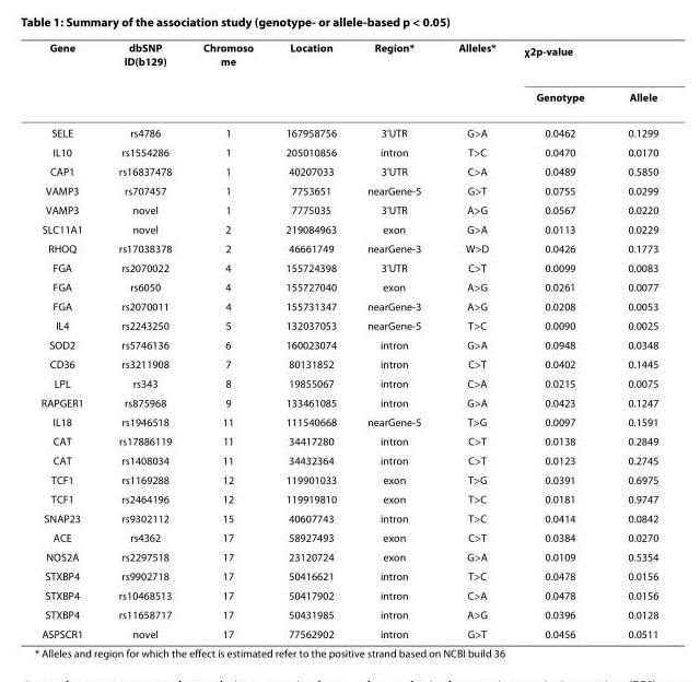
<table><thead><tr><td rowspan="2">Gene</td><td rowspan="2">dbSNP ID(b129)</td><td rowspan="2">Chromoso me</td><td rowspan="2">Location</td><td rowspan="2">Region*</td><td rowspan="2">Alleles*</td><td colspan="2">χ<sup>2</sup>p-value</td></tr><tr><td>Genotype</td><td>Allele</td></tr></thead><tbody><tr><td>SELE</td><td>rs4786</td><td>1</td><td>167958756</td><td>3&#x27;UTR</td><td>G&gt;A</td><td>0.0462</td><td>0.1299</td></tr><tr><td>IL10</td><td>rs1554286</td><td>1</td><td>205010856</td><td>intron</td><td>T&gt;C</td><td>0.0470</td><td>0.0170</td></tr><tr><td>CAP1</td><td>rs16837478</td><td>1</td><td>40207033</td><td>3&#x27;UTR</td><td>C&gt;A</td><td>0.0489</td><td>0.5850</td></tr><tr><td>VAMP3</td><td>rs707457</td><td>1</td><td>7753651</td><td>nearGene-5</td><td>G&gt;T</td><td>0.0755</td><td>0.0299</td></tr><tr><td>VAMP3</td><td>novel</td><td>1</td><td>7775035</td><td>3&#x27;UTR</td><td>A&gt;G</td><td>0.0567</td><td>0.0220</td></tr><tr><td>SLC11A1</td><td>novel</td><td>2</td><td>219084963</td><td>exon</td><td>G&gt;A</td><td>0.0113</td><td>0.0229</td></tr><tr><td>RHOQ</td><td>rs17038378</td><td>2</td><td>46661749</td><td>nearGene-3</td><td>W&gt;D</td><td>0.0426</td><td>0.1773</td></tr><tr><td>FGA</td><td>rs2070022</td><td>4</td><td>155724398</td><td>3&#x27;UTR</td><td>C&gt;T</td><td>0.0099</td><td>0.0083</td></tr><tr><td>FGA</td><td>rs6050</td><td>4</td><td>155727040</td><td>exon</td><td>A&gt;G</td><td>0.0261</td><td>0.0077</td></tr><tr><td>FGA</td><td>rs2070011</td><td>4</td><td>155731347</td><td>nearGene-3</td><td>A&gt;G</td><td>0.0208</td><td>0.0053</td></tr><tr><td>IL4</td><td>rs2243250</td><td>5</td><td>132037053</td><td>nearGene-5</td><td>T&gt;C</td><td>0.0090</td><td>0.0025</td></tr><tr><td>SOD2</td><td>rs5746136</td><td>6</td><td>160023074</td><td>intron</td><td>G&gt;A</td><td>0.0948</td><td>0.0348</td></tr><tr><td>CD36</td><td>rs3211908</td><td>7</td><td>80131852</td><td>intron</td><td>C&gt;T</td><td>0.0402</td><td>0.1445</td></tr><tr><td>LPL</td><td>rs343</td><td>8</td><td>19855067</td><td>intron</td><td>C&gt;A</td><td>0.0215</td><td>0.0075</td></tr><tr><td>RAPGER1</td><td>rs875968</td><td>9</td><td>133461085</td><td>intron</td><td>G&gt;A</td><td>0.0423</td><td>0.1247</td></tr><tr><td>IL18</td><td>rs1946518</td><td>11</td><td>111540668</td><td>nearGene-5</td><td>T&gt;G</td><td>0.0097</td><td>0.1591</td></tr><tr><td>CAT</td><td>rs17886119</td><td>11</td><td>34417280</td><td>intron</td><td>C&gt;T</td><td>0.0138</td><td>0.2849</td></tr><tr><td>CAT</td><td>rs1408034</td><td>11</td><td>34432364</td><td>intron</td><td>C&gt;T</td><td>0.0123</td><td>0.2745</td></tr><tr><td>TCF1</td><td>rs1169288</td><td>12</td><td>119901033</td><td>exon</td><td>T&gt;G</td><td>0.0391</td><td>0.6975</td></tr><tr><td>TCF1</td><td>rs2464196</td><td>12</td><td>119919810</td><td>exon</td><td>T&gt;C</td><td>0.0181</td><td>0.9747</td></tr><tr><td>SNAP23</td><td>rs9302112</td><td>15</td><td>40607743</td><td>intron</td><td>T&gt;C</td><td>0.0414</td><td>0.0842</td></tr><tr><td>ACE</td><td>rs4362</td><td>17</td><td>58927493</td><td>exon</td><td>C&gt;T</td><td>0.0384</td><td>0.0270</td></tr><tr><td>NOS2A</td><td>rs2297518</td><td>17</td><td>23120724</td><td>exon</td><td>G&gt;A</td><td>0.0109</td><td>0.5354</td></tr><tr><td>STXBP4</td><td>rs9902718</td><td>17</td><td>50416621</td><td>intron</td><td>T&gt;C</td><td>0.0478</td><td>0.0156</td></tr><tr><td>STXBP4</td><td>rs10468513</td><td>17</td><td>50417902</td><td>intron</td><td>C&gt;A</td><td>0.0478</td><td>0.0156</td></tr><tr><td>STXBP4</td><td>rs11658717</td><td>17</td><td>50431985</td><td>intron</td><td>A&gt;G</td><td>0.0396</td><td>0.0128</td></tr><tr><td>ASPSCR1</td><td>novel</td><td>17</td><td>77562902</td><td>intron</td><td>G&gt;T</td><td>0.0456</td><td>0.0511</td></tr></tbody></table>